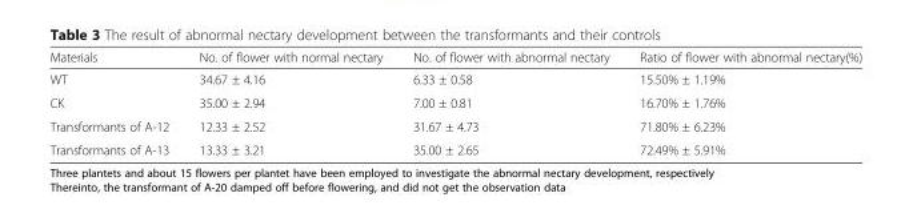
<table><thead><tr><td>Materials</td><td>No. of flower with normal nectary</td><td>No. of flower with abnormal nectary</td><td>Ratio of flower with abnormal nectary(%)</td></tr></thead><tbody><tr><td>WT</td><td>34.67 ± 4.16</td><td>6.33 ± 0.58</td><td>15.50% ± 1.19%</td></tr><tr><td>CK</td><td>35.00 ± 2.94</td><td>7.00 ± 0.81</td><td>16.70% ± 1.76%</td></tr><tr><td>Transformants of A-12</td><td>12.33 ± 2.52</td><td>31.67 ± 4.73</td><td>71.80% ± 6.23%</td></tr><tr><td>Transformants of A-13</td><td>13.33 ± 3.21</td><td>35.00 ± 2.65</td><td>72.49% ± 5.91%</td></tr></tbody></table>